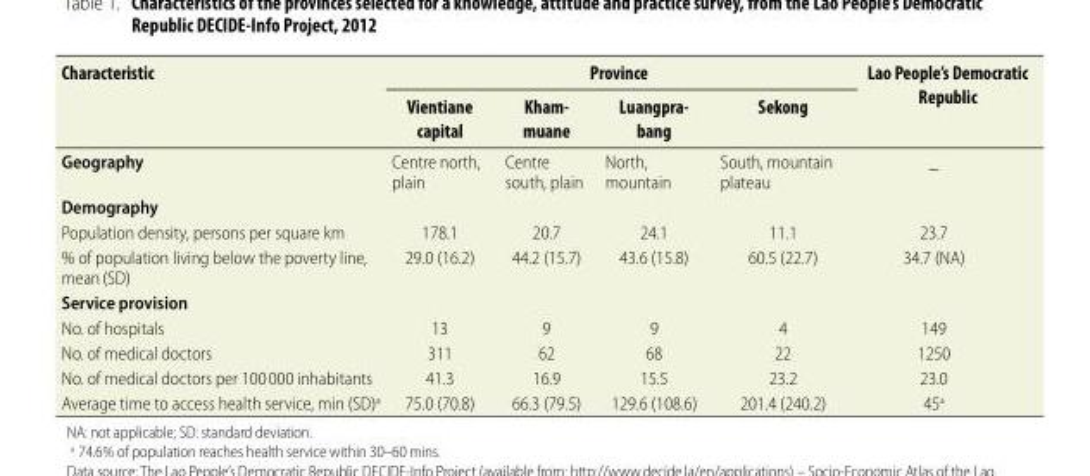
<table><thead><tr><td rowspan="2">Characteristic</td><td colspan="4">Province</td><td rowspan="2">Lao People’s Democratic Republic</td></tr><tr><td>Vientiane capital</td><td>Kham- muane</td><td>Luangpra- bang</td><td>Sekong</td></tr></thead><tbody><tr><td>Geography</td><td>Centre north, plain</td><td>Centre south, plain</td><td>North, mountain</td><td>South, mountain plateau</td><td>_</td></tr><tr><td colspan="6">Demography</td></tr><tr><td>Population density, persons per square km</td><td>178.1</td><td>20.7</td><td>24.1</td><td>11.1</td><td>23.7</td></tr><tr><td>% of population living below the poverty line, mean (SD)</td><td>29.0 (16.2)</td><td>44.2 (15.7)</td><td>43.6 (15.8)</td><td>60.5 (22.7)</td><td>34.7 (NA)</td></tr><tr><td colspan="6">Service provision</td></tr><tr><td>No. of hospitals</td><td>13</td><td>9</td><td>9</td><td>4</td><td>149</td></tr><tr><td>No. of medical doctors</td><td>311</td><td>62</td><td>68</td><td>22</td><td>1250</td></tr><tr><td>No. of medical doctors per 100 000 inhabitants</td><td>41.3</td><td>16.9</td><td>15.5</td><td>23.2</td><td>23.0</td></tr><tr><td>Average time to access health service, min (SD)<sup>a</sup></td><td>75.0 (70.8)</td><td>66.3 (79.5)</td><td>129.6 (108.6)</td><td>201.4 (240.2)</td><td>45<sup>a</sup></td></tr></tbody></table>